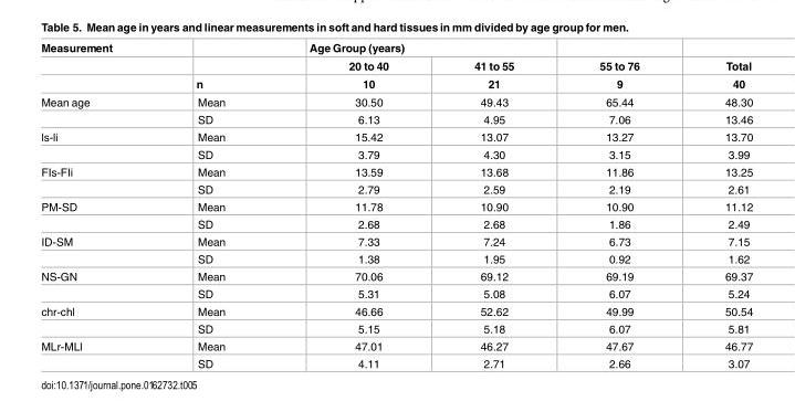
<table><thead><tr><td rowspan="3">Measurement</td><td rowspan="3">n</td><td colspan="2">Age Group (years)</td><td rowspan="3">55 to 76 9</td><td rowspan="3">Total 40</td></tr><tr><td rowspan="2">20 to 40 10</td><td rowspan="2">41 to 55 21</td></tr><tr></tr></thead><tbody><tr><td rowspan="2">Mean age</td><td>Mean</td><td>30.50</td><td>49.43</td><td>65.44</td><td>48.30</td></tr><tr><td>SD</td><td>6.13</td><td>4.95</td><td>7.06</td><td>13.46</td></tr><tr><td rowspan="2">ls-li</td><td>Mean</td><td>15.42</td><td>13.07</td><td>13.27</td><td>13.70</td></tr><tr><td>SD</td><td>3.79</td><td>4.30</td><td>3.15</td><td>3.99</td></tr><tr><td rowspan="2">FIs-FIi</td><td>Mean</td><td>13.59</td><td>13.68</td><td>11.86</td><td>13.25</td></tr><tr><td>SD</td><td>2.79</td><td>2.59</td><td>2.19</td><td>2.61</td></tr><tr><td rowspan="2">PM-SD</td><td>Mean</td><td>11.78</td><td>10.90</td><td>10.90</td><td>11.12</td></tr><tr><td>SD</td><td>2.68</td><td>2.68</td><td>1.86</td><td>2.49</td></tr><tr><td rowspan="2">ID-SM</td><td>Mean</td><td>7.33</td><td>7.24</td><td>6.73</td><td>7.15</td></tr><tr><td>SD</td><td>1.38</td><td>1.95</td><td>0.92</td><td>1.62</td></tr><tr><td rowspan="2">NS-GN</td><td>Mean</td><td>70.06</td><td>69.12</td><td>69.19</td><td>69.37</td></tr><tr><td>SD</td><td>5.31</td><td>5.08</td><td>6.07</td><td>5.24</td></tr><tr><td rowspan="2">chr-chl</td><td>Mean</td><td>46.66</td><td>52.62</td><td>49.99</td><td>50.54</td></tr><tr><td>SD</td><td>5.15</td><td>5.18</td><td>6.07</td><td>5.81</td></tr><tr><td rowspan="2">MLr-MLl</td><td>Mean</td><td>47.01</td><td>46.27</td><td>47.67</td><td>46.77</td></tr><tr><td>SD</td><td>4.11</td><td>2.71</td><td>2.66</td><td>3.07</td></tr></tbody></table>